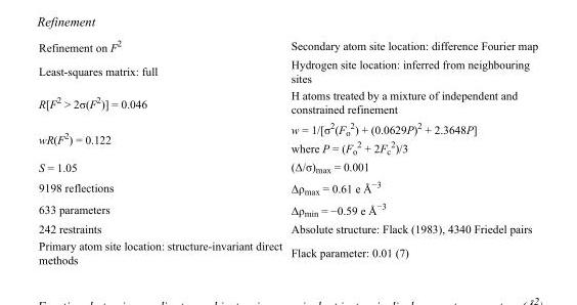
<table><tbody><tr><td>Refinement on F<sup>2</sup></td><td>Secondary atom site location: difference Fourier map</td></tr><tr><td>Least-squares matrix: full</td><td>Hydrogen site location: inferred from neighbouring sites</td></tr><tr><td>R[F<sup>2</sup> &gt; 2σ(F<sup>2</sup>)] = 0.046</td><td>H atoms treated by a mixture of independent and constrained refinement</td></tr><tr><td>wR(F<sup>2</sup>) = 0.122</td><td>w = 1/[σ<sup>2</sup>(F<sub>o</sub> <sup>2</sup>) + (0.0629P)<sup>2</sup> + 2.3648P] where P = (F<sub>o</sub> <sup>2</sup> + 2F<sub>c</sub> <sup>2</sup>)/3</td></tr><tr><td>S = 1.05</td><td>(Δ/σ)<sub>max</sub> = 0.001</td></tr><tr><td>9198 reflections</td><td>Δρ<sub>max</sub> = 0.61 e Å<sup>−3</sup></td></tr><tr><td>633 parameters</td><td>Δρ<sub>min</sub> = −0.59 e Å<sup>−3</sup></td></tr><tr><td>242 restraints</td><td>Absolute structure: Flack (1983), 4340 Friedel pairs</td></tr><tr><td>Primary atom site location: structure-invariant direct methods</td><td>Flack parameter: 0.01 (7)</td></tr></tbody></table>